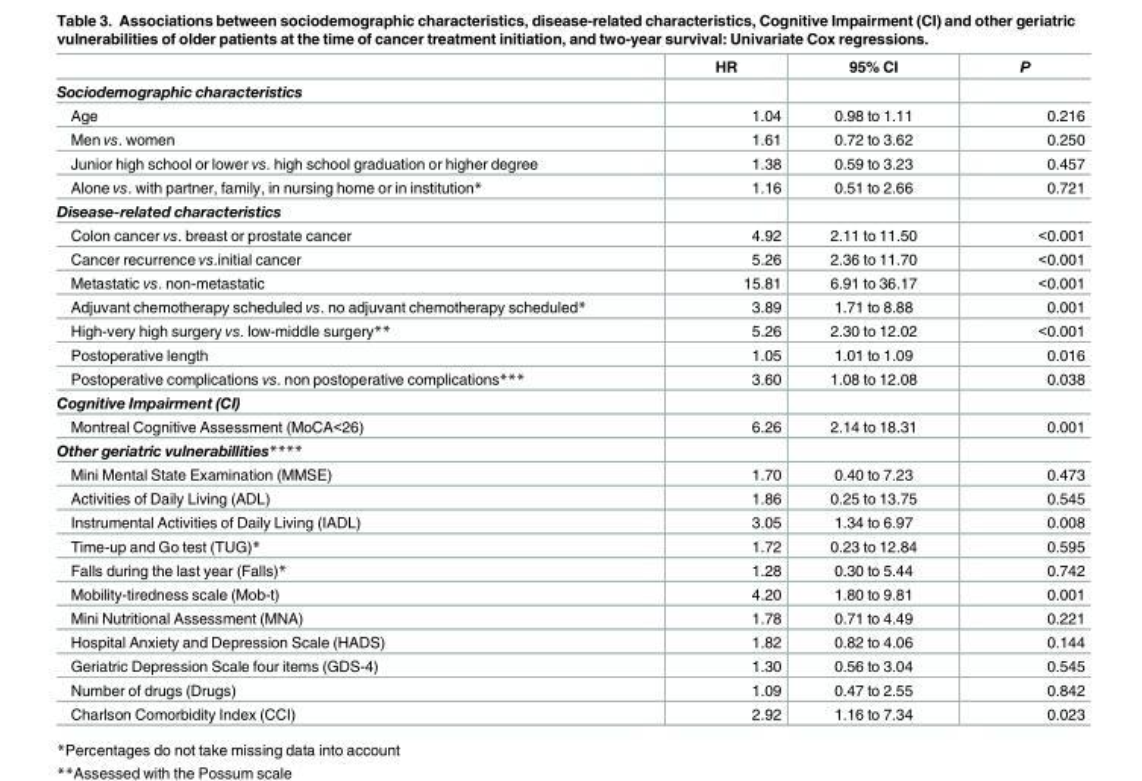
<table><thead><tr><td></td><td>HR</td><td>95% CI</td><td>P</td></tr></thead><tbody><tr><td colspan="4">Sociodemographic characteristics</td></tr><tr><td>Age</td><td>1.04</td><td>0.98 to 1.11</td><td>0.216</td></tr><tr><td>Men vs. women</td><td>1.61</td><td>0.72 to 3.62</td><td>0.250</td></tr><tr><td>Junior high school or lower vs. high school graduation or higher degree</td><td>1.38</td><td>0.59 to 3.23</td><td>0.457</td></tr><tr><td>Alone vs. with partner, family, in nursing home or in institution*</td><td>1.16</td><td>0.51 to 2.66</td><td>0.721</td></tr><tr><td colspan="4">Disease-related characteristics</td></tr><tr><td>Colon cancer vs. breast or prostate cancer</td><td>4.92</td><td>2.11 to 11.50</td><td>&lt;0.001</td></tr><tr><td>Cancer recurrence vs.initial cancer</td><td>5.26</td><td>2.36 to 11.70</td><td>&lt;0.001</td></tr><tr><td>Metastatic vs. non-metastatic</td><td>15.81</td><td>6.91 to 36.17</td><td>&lt;0.001</td></tr><tr><td>Adjuvant chemotherapy scheduled vs. no adjuvant chemotherapy scheduled*</td><td>3.89</td><td>1.71 to 8.88</td><td>0.001</td></tr><tr><td>High-very high surgery vs. low-middle surgery**</td><td>5.26</td><td>2.30 to 12.02</td><td>&lt;0.001</td></tr><tr><td>Postoperative length</td><td>1.05</td><td>1.01 to 1.09</td><td>0.016</td></tr><tr><td>Postoperative complications vs. non postoperative complications***</td><td>3.60</td><td>1.08 to 12.08</td><td>0.038</td></tr><tr><td colspan="4">Cognitive Impairment (CI)</td></tr><tr><td>Montreal Cognitive Assessment (MoCA&lt;26)</td><td>6.26</td><td>2.14 to 18.31</td><td>0.001</td></tr><tr><td colspan="4">Other geriatric vulnerabillities****</td></tr><tr><td>Mini Mental State Examination (MMSE)</td><td>1.70</td><td>0.40 to 7.23</td><td>0.473</td></tr><tr><td>Activities of Daily Living (ADL)</td><td>1.86</td><td>0.25 to 13.75</td><td>0.545</td></tr><tr><td>Instrumental Activities of Daily Living (IADL)</td><td>3.05</td><td>1.34 to 6.97</td><td>0.008</td></tr><tr><td>Time-up and Go test (TUG)*</td><td>1.72</td><td>0.23 to 12.84</td><td>0.595</td></tr><tr><td>Falls during the last year (Falls)*</td><td>1.28</td><td>0.30 to 5.44</td><td>0.742</td></tr><tr><td>Mobility-tiredness scale (Mob-t)</td><td>4.20</td><td>1.80 to 9.81</td><td>0.001</td></tr><tr><td>Mini Nutritional Assessment (MNA)</td><td>1.78</td><td>0.71 to 4.49</td><td>0.221</td></tr><tr><td>Hospital Anxiety and Depression Scale (HADS)</td><td>1.82</td><td>0.82 to 4.06</td><td>0.144</td></tr><tr><td>Geriatric Depression Scale four items (GDS-4)</td><td>1.30</td><td>0.56 to 3.04</td><td>0.545</td></tr><tr><td>Number of drugs (Drugs)</td><td>1.09</td><td>0.47 to 2.55</td><td>0.842</td></tr><tr><td>Charlson Comorbidity Index (CCI)</td><td>2.92</td><td>1.16 to 7.34</td><td>0.023</td></tr></tbody></table>